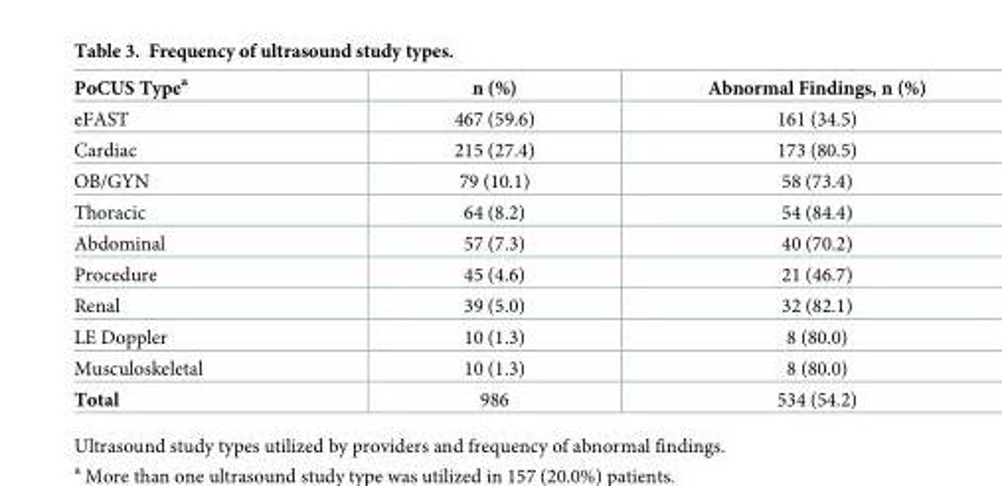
<table><thead><tr><td>PoCUS Type<sup>a</sup></td><td>n (%)</td><td>Abnormal Findings, n (%)</td></tr></thead><tbody><tr><td>eFAST</td><td>467 (59.6)</td><td>161 (34.5)</td></tr><tr><td>Cardiac</td><td>215 (27.4)</td><td>173 (80.5)</td></tr><tr><td>OB/GYN</td><td>79 (10.1)</td><td>58 (73.4)</td></tr><tr><td>Thoracic</td><td>64 (8.2)</td><td>54 (84.4)</td></tr><tr><td>Abdominal</td><td>57 (7.3)</td><td>40 (70.2)</td></tr><tr><td>Procedure</td><td>45 (4.6)</td><td>21 (46.7)</td></tr><tr><td>Renal</td><td>39 (5.0)</td><td>32 (82.1)</td></tr><tr><td>LE Doppler</td><td>10 (1.3)</td><td>8 (80.0)</td></tr><tr><td>Musculoskeletal</td><td>10 (1.3)</td><td>8 (80.0)</td></tr><tr><td>Total</td><td>986</td><td>534 (54.2)</td></tr></tbody></table>